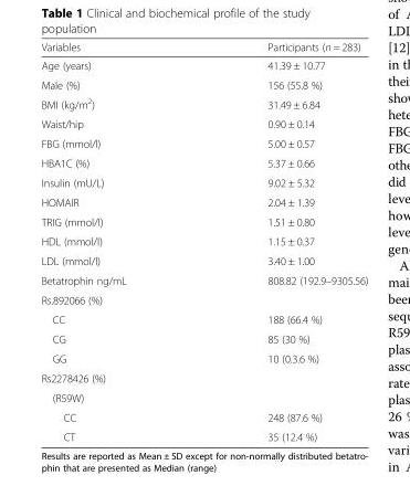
<table><thead><tr><td>Variables</td><td>Participants (n = 283)</td></tr></thead><tbody><tr><td>Age (years)</td><td>41.39 ± 10.77</td></tr><tr><td>Male (%)</td><td>156 (55.8 %)</td></tr><tr><td>BMI (kg/m<sup>2</sup>)</td><td>31.49 ± 6.84</td></tr><tr><td>Waist/hip</td><td>0.90 ± 0.14</td></tr><tr><td>FBG (mmol/l)</td><td>5.00 ± 0.57</td></tr><tr><td>HBA1C (%)</td><td>5.37 ± 0.66</td></tr><tr><td>Insulin (mU/L)</td><td>9.02 ± 5.32</td></tr><tr><td>HOMAIR</td><td>2.04 ± 1.39</td></tr><tr><td>TRIG (mmol/l)</td><td>1.51 ± 0.80</td></tr><tr><td>HDL (mmol/l)</td><td>1.15 ± 0.37</td></tr><tr><td>LDL (mmol/l)</td><td>3.40 ± 1.00</td></tr><tr><td>Betatrophin ng/mL</td><td>808.82 (192.9–9305.56)</td></tr><tr><td colspan="2">Rs.892066 (%)</td></tr><tr><td>CC</td><td>188 (66.4 %)</td></tr><tr><td>CG</td><td>85 (30 %)</td></tr><tr><td>GG</td><td>10 (0.3.6 %)</td></tr><tr><td colspan="2">Rs2278426 (%)</td></tr><tr><td colspan="2">(R59W)</td></tr><tr><td>CC</td><td>248 (87.6 %)</td></tr><tr><td>CT</td><td>35 (12.4 %)</td></tr></tbody></table>